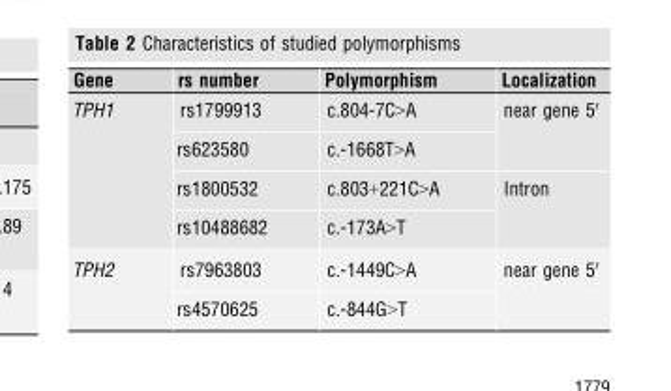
<table><thead><tr><td>Gene</td><td>rs number</td><td>Polymorphism</td><td>Localization</td></tr></thead><tbody><tr><td rowspan="4">TPH1</td><td>rs1799913</td><td>c.804-7C&gt;A</td><td rowspan="2">near gene 5′</td></tr><tr><td>rs623580</td><td>c.-1668T&gt;A</td></tr><tr><td>rs1800532</td><td>c.803+221C&gt;A</td><td rowspan="2">Intron</td></tr><tr><td>rs10488682</td><td>c.-173A&gt;T</td></tr><tr><td rowspan="2">TPH2</td><td>rs7963803</td><td>c.-1449C&gt;A</td><td rowspan="2">near gene 5′</td></tr><tr><td>rs4570625</td><td>c.-844G&gt;T</td></tr></tbody></table>